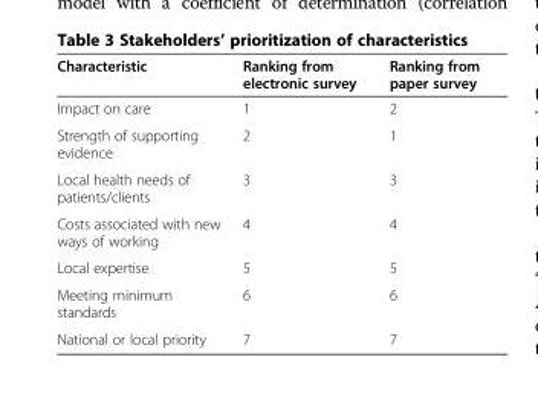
<table><thead><tr><td>Characteristic</td><td>Ranking from electronic survey</td><td>Ranking from paper survey</td></tr></thead><tbody><tr><td>Impact on care</td><td>1</td><td>2</td></tr><tr><td>Strength of supporting evidence</td><td>2</td><td>1</td></tr><tr><td>Local health needs of patients/clients</td><td>3</td><td>3</td></tr><tr><td>Costs associated with new ways of working</td><td>4</td><td>4</td></tr><tr><td>Local expertise</td><td>5</td><td>5</td></tr><tr><td>Meeting minimum standards</td><td>6</td><td>6</td></tr><tr><td>National or local priority</td><td>7</td><td>7</td></tr></tbody></table>